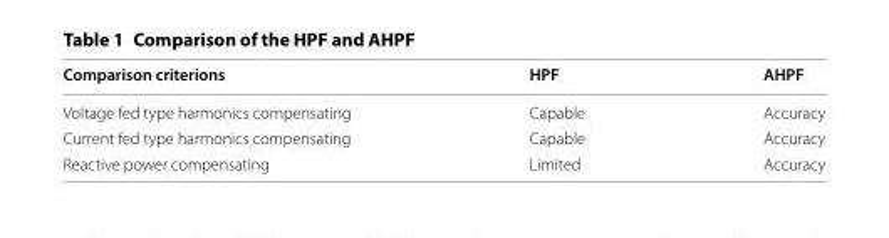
<table><thead><tr><td>Comparison criterions</td><td>HPF</td><td>AHPF</td></tr></thead><tbody><tr><td>Voltage fed type harmonics compensating</td><td>Capable</td><td>Accuracy</td></tr><tr><td>Current fed type harmonics compensating</td><td>Capable</td><td>Accuracy</td></tr><tr><td>Reactive power compensating</td><td>Limited</td><td>Accuracy</td></tr></tbody></table>